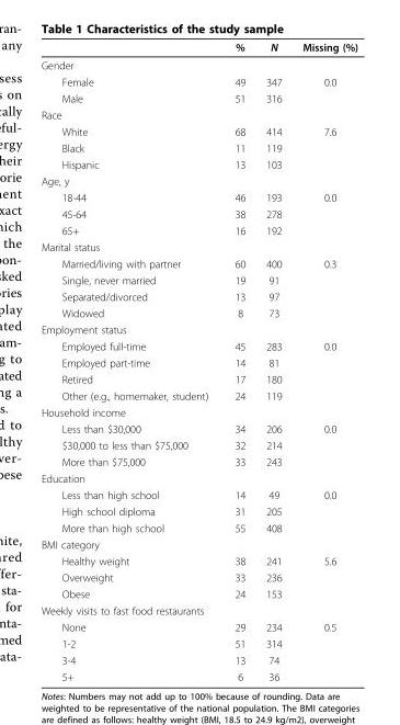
<table><thead><tr><td></td><td>%</td><td>N</td><td>Missing (%)</td></tr></thead><tbody><tr><td colspan="4">Gender</td></tr><tr><td>Female</td><td>49</td><td>347</td><td>0.0</td></tr><tr><td>Male</td><td>51</td><td>316</td><td></td></tr><tr><td colspan="4">Race</td></tr><tr><td>White</td><td>68</td><td>414</td><td>7.6</td></tr><tr><td>Black</td><td>11</td><td>119</td><td></td></tr><tr><td>Hispanic</td><td>13</td><td>103</td><td></td></tr><tr><td colspan="4">Age, y</td></tr><tr><td>18-44</td><td>46</td><td>193</td><td>0.0</td></tr><tr><td>45-64</td><td>38</td><td>278</td><td></td></tr><tr><td>65+</td><td>16</td><td>192</td><td></td></tr><tr><td colspan="4">Marital status</td></tr><tr><td>Married/living with partner</td><td>60</td><td>400</td><td>0.3</td></tr><tr><td>Single, never married</td><td>19</td><td>91</td><td></td></tr><tr><td>Separated/divorced</td><td>13</td><td>97</td><td></td></tr><tr><td>Widowed</td><td>8</td><td>73</td><td></td></tr><tr><td colspan="4">Employment status</td></tr><tr><td>Employed full-time</td><td>45</td><td>283</td><td>0.0</td></tr><tr><td>Employed part-time</td><td>14</td><td>81</td><td></td></tr><tr><td>Retired</td><td>17</td><td>180</td><td></td></tr><tr><td>Other (e.g., homemaker, student)</td><td>24</td><td>119</td><td></td></tr><tr><td colspan="4">Household income</td></tr><tr><td>Less than $30,000</td><td>34</td><td>206</td><td>0.0</td></tr><tr><td>$30,000 to less than $75,000</td><td>32</td><td>214</td><td></td></tr><tr><td>More than $75,000</td><td>33</td><td>243</td><td></td></tr><tr><td colspan="4">Education</td></tr><tr><td>Less than high school</td><td>14</td><td>49</td><td>0.0</td></tr><tr><td>High school diploma</td><td>31</td><td>205</td><td></td></tr><tr><td>More than high school</td><td>55</td><td>408</td><td></td></tr><tr><td colspan="4">BMI category</td></tr><tr><td>Healthy weight</td><td>38</td><td>241</td><td>5.6</td></tr><tr><td>Overweight</td><td>33</td><td>236</td><td></td></tr><tr><td>Obese</td><td>24</td><td>153</td><td></td></tr><tr><td colspan="4">Weekly visits to fast food restaurants</td></tr><tr><td>None</td><td>29</td><td>234</td><td>0.5</td></tr><tr><td>1-2</td><td>51</td><td>314</td><td></td></tr><tr><td>3-4</td><td>13</td><td>74</td><td></td></tr><tr><td>5+</td><td>6</td><td>36</td><td></td></tr></tbody></table>